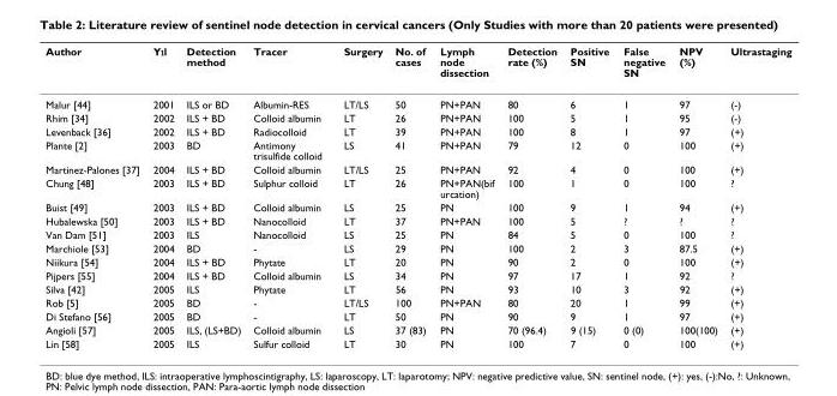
<table><thead><tr><td>Author</td><td>Yıl</td><td>Detection method</td><td>Tracer</td><td>Surgery</td><td>No. of cases</td><td>Lymph node dissection</td><td>Detection rate (%)</td><td>Positive SN</td><td>False negative SN</td><td>NPV (%)</td><td>Ultrastaging</td></tr></thead><tbody><tr><td>Malur [44]</td><td>2001</td><td>ILS or BD</td><td>Albumin-RES</td><td>LT/LS</td><td>50</td><td>PN+PAN</td><td>80</td><td>6</td><td>1</td><td>97</td><td>(-)</td></tr><tr><td>Rhim [34]</td><td>2002</td><td>ILS + BD</td><td>Colloid albumin</td><td>LT</td><td>26</td><td>PN+PAN</td><td>100</td><td>5</td><td>1</td><td>95</td><td>(-)</td></tr><tr><td>Levenback [36]</td><td>2002</td><td>ILS + BD</td><td>Radiocolloid</td><td>LT</td><td>39</td><td>PN+PAN</td><td>100</td><td>8</td><td>1</td><td>97</td><td>(+)</td></tr><tr><td>Plante [2]</td><td>2003</td><td>BD</td><td>Antimony trisulfide colloid</td><td>LS</td><td>41</td><td>PN+PAN</td><td>79</td><td>12</td><td>0</td><td>100</td><td>(+)</td></tr><tr><td>Martinez-Palones [37]</td><td>2004</td><td>ILS + BD</td><td>Colloid albumin</td><td>LT/LS</td><td>25</td><td>PN+PAN</td><td>92</td><td>4</td><td>0</td><td>100</td><td>(+)</td></tr><tr><td>Chung [48]</td><td>2003</td><td>ILS + BD</td><td>Sulphur colloid</td><td>LT</td><td>26</td><td>PN+PAN(bif urcation)</td><td>100</td><td>1</td><td>0</td><td>100</td><td>?</td></tr><tr><td>Buist [49]</td><td>2003</td><td>ILS + BD</td><td>Colloid albumin</td><td>LS</td><td>25</td><td>PN</td><td>100</td><td>9</td><td>1</td><td>94</td><td>(+)</td></tr><tr><td>Hubalewska [50]</td><td>2003</td><td>ILS + BD</td><td>Nanocolloid</td><td>LT</td><td>37</td><td>PN+PAN</td><td>100</td><td>5</td><td>?</td><td>?</td><td>?</td></tr><tr><td>Van Dam [51]</td><td>2003</td><td>ILS</td><td>Nanocolloid</td><td>LS</td><td>25</td><td>PN</td><td>84</td><td>5</td><td>0</td><td>100</td><td>?</td></tr><tr><td>Marchiole [53]</td><td>2004</td><td>BD</td><td>-</td><td>LS</td><td>29</td><td>PN</td><td>100</td><td>2</td><td>3</td><td>87.5</td><td>(+)</td></tr><tr><td>Niikura [54]</td><td>2004</td><td>ILS + BD</td><td>Phytate</td><td>LT</td><td>20</td><td>PN</td><td>90</td><td>2</td><td>0</td><td>100</td><td>(+)</td></tr><tr><td>Pijpers [55]</td><td>2004</td><td>ILS + BD</td><td>Colloid albumin</td><td>LS</td><td>34</td><td>PN</td><td>97</td><td>17</td><td>1</td><td>92</td><td>?</td></tr><tr><td>Silva [42]</td><td>2005</td><td>ILS</td><td>Phytate</td><td>LT</td><td>56</td><td>PN</td><td>93</td><td>10</td><td>3</td><td>92</td><td>(+)</td></tr><tr><td>Rob [5]</td><td>2005</td><td>BD</td><td>-</td><td>LT/LS</td><td>100</td><td>PN+PAN</td><td>80</td><td>20</td><td>1</td><td>99</td><td>(+)</td></tr><tr><td>Di Stefano [56]</td><td>2005</td><td>BD</td><td>-</td><td>LT</td><td>50</td><td>PN</td><td>90</td><td>9</td><td>1</td><td>97</td><td>(+)</td></tr><tr><td>Angioli [57]</td><td>2005</td><td>ILS, (LS+BD)</td><td>Colloid albumin</td><td>LS</td><td>37 (83)</td><td>PN</td><td>70 (96.4)</td><td>9 (15)</td><td>0 (0)</td><td>100(100)</td><td>(+)</td></tr><tr><td>Lin [58]</td><td>2005</td><td>ILS</td><td>Sulfur colloid</td><td>LT</td><td>30</td><td>PN</td><td>100</td><td>7</td><td>0</td><td>100</td><td>(+)</td></tr></tbody></table>